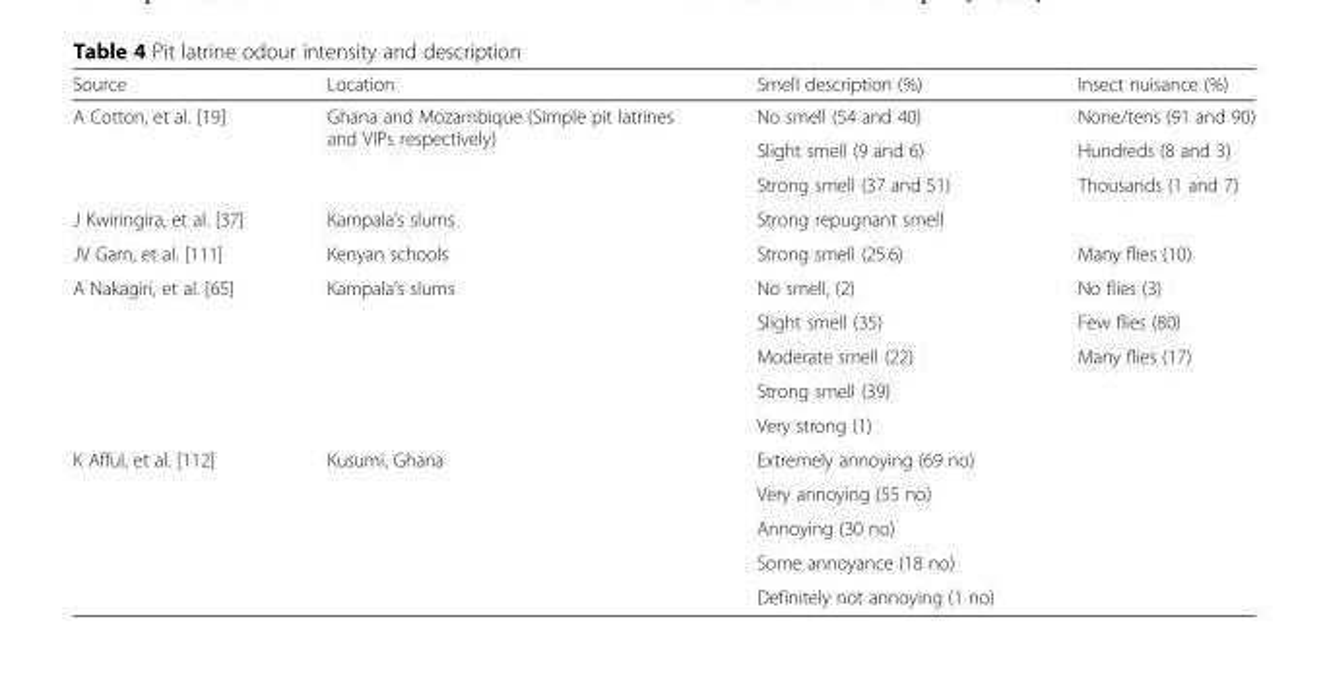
<table><thead><tr><td>Source</td><td>Location</td><td>Smell description (%)</td><td>Insect nuisance (%)</td></tr></thead><tbody><tr><td rowspan="3">A Cotton, et al. [19]</td><td rowspan="3">Ghana and Mozambique (Simple pit latrines and VIPs respectively)</td><td>No smell (54 and 40)</td><td>None/tens (91 and 90)</td></tr><tr><td>Slight smell (9 and 6)</td><td>Hundreds (8 and 3)</td></tr><tr><td>Strong smell (37 and 51)</td><td>Thousands (1 and 7)</td></tr><tr><td>J Kwiringira, et al. [37]</td><td>Kampala’s slums</td><td>Strong repugnant smell</td><td></td></tr><tr><td>JV Garn, et al. [111]</td><td>Kenyan schools</td><td>Strong smell (25.6)</td><td>Many flies (10)</td></tr><tr><td rowspan="5">A Nakagiri, et al. [65]</td><td rowspan="5">Kampala’s slums</td><td>No smell, (2)</td><td>No flies (3)</td></tr><tr><td>Slight smell (35)</td><td>Few flies (80)</td></tr><tr><td>Moderate smell (22)</td><td>Many flies (17)</td></tr><tr><td>Strong smell (39)</td><td></td></tr><tr><td>Very strong (1)</td><td></td></tr><tr><td rowspan="5">K Afful, et al. [112]</td><td>Kusumi, Ghana</td><td>Extremely annoying (69 no)</td><td></td></tr><tr><td></td><td>Very annoying (55 no)</td><td></td></tr><tr><td></td><td>Annoying (30 no)</td><td></td></tr><tr><td></td><td>Some annoyance (18 no)</td><td></td></tr><tr><td></td><td>Definitely not annoying (1 no)</td><td></td></tr></tbody></table>